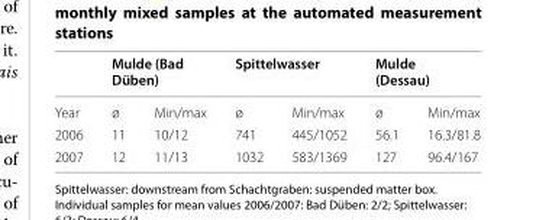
<table><thead><tr><td rowspan="2">Year</td><td colspan="2">Mulde (Bad Düben)</td><td colspan="2">Spittelwasser</td><td colspan="2">Mulde (Dessau)</td></tr><tr><td>ø</td><td>Min/max</td><td>ø</td><td>Min/max</td><td>ø</td><td>Min/max</td></tr></thead><tbody><tr><td>2006</td><td>11</td><td>10/12</td><td>741</td><td>445/1052</td><td>56.1</td><td>16.3/81.8</td></tr><tr><td>2007</td><td>12</td><td>11/13</td><td>1032</td><td>583/1369</td><td>127</td><td>96.4/167</td></tr></tbody></table>